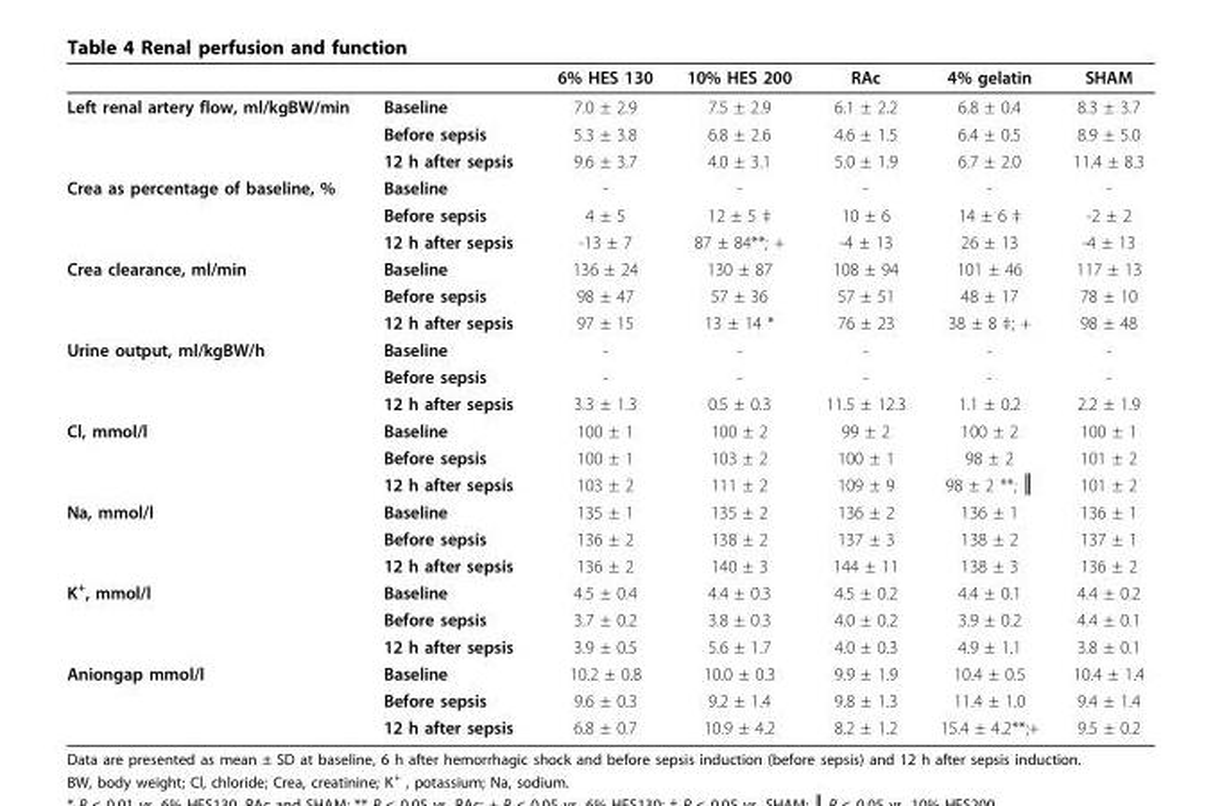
<table><thead><tr><td></td><td></td><td>6% HES 130</td><td>10% HES 200</td><td>RAc</td><td>4% gelatin</td><td>SHAM</td></tr></thead><tbody><tr><td rowspan="3">Left renal artery flow, ml/kgBW/min</td><td>Baseline</td><td>7.0 ± 2.9</td><td>7.5 ± 2.9</td><td>6.1 ± 2.2</td><td>6.8 ± 0.4</td><td>8.3 ± 3.7</td></tr><tr><td>Before sepsis</td><td>5.3 ± 3.8</td><td>6.8 ± 2.6</td><td>4.6 ± 1.5</td><td>6.4 ± 0.5</td><td>8.9 ± 5.0</td></tr><tr><td>12 h after sepsis</td><td>9.6 ± 3.7</td><td>4.0 ± 3.1</td><td>5.0 ± 1.9</td><td>6.7 ± 2.0</td><td>11.4 ± 8.3</td></tr><tr><td rowspan="3">Crea as percentage of baseline, %</td><td>Baseline</td><td>-</td><td>-</td><td>-</td><td>-</td><td>-</td></tr><tr><td>Before sepsis</td><td>4 ± 5</td><td>12 ± 5 ‡</td><td>10 ± 6</td><td>14 ± 6 ‡</td><td>-2 ± 2</td></tr><tr><td>12 h after sepsis</td><td>-13 ± 7</td><td>87 ± 84**; +</td><td>-4 ± 13</td><td>26 ± 13</td><td>-4 ± 13</td></tr><tr><td rowspan="3">Crea clearance, ml/min</td><td>Baseline</td><td>136 ± 24</td><td>130 ± 87</td><td>108 ± 94</td><td>101 ± 46</td><td>117 ± 13</td></tr><tr><td>Before sepsis</td><td>98 ± 47</td><td>57 ± 36</td><td>57 ± 51</td><td>48 ± 17</td><td>78 ± 10</td></tr><tr><td>12 h after sepsis</td><td>97 ± 15</td><td>13 ± 14 *</td><td>76 ± 23</td><td>38 ± 8 ‡; +</td><td>98 ± 48</td></tr><tr><td rowspan="3">Urine output, ml/kgBW/h</td><td>Baseline</td><td>-</td><td>-</td><td>-</td><td>-</td><td>-</td></tr><tr><td>Before sepsis</td><td>-</td><td>-</td><td>-</td><td>-</td><td>-</td></tr><tr><td>12 h after sepsis</td><td>3.3 ± 1.3</td><td>0.5 ± 0.3</td><td>11.5 ± 12.3</td><td>1.1 ± 0.2</td><td>2.2 ± 1.9</td></tr><tr><td rowspan="3">Cl, mmol/l</td><td>Baseline</td><td>100 ± 1</td><td>100 ± 2</td><td>99 ± 2</td><td>100 ± 2</td><td>100 ± 1</td></tr><tr><td>Before sepsis</td><td>100 ± 1</td><td>103 ± 2</td><td>100 ± 1</td><td>98 ± 2</td><td>101 ± 2</td></tr><tr><td>12 h after sepsis</td><td>103 ± 2</td><td>111 ± 2</td><td>109 ± 9</td><td>98 ± 2 **; ║</td><td>101 ± 2</td></tr><tr><td rowspan="3">Na, mmol/l</td><td>Baseline</td><td>135 ± 1</td><td>135 ± 2</td><td>136 ± 2</td><td>136 ± 1</td><td>136 ± 1</td></tr><tr><td>Before sepsis</td><td>136 ± 2</td><td>138 ± 2</td><td>137 ± 3</td><td>138 ± 2</td><td>137 ± 1</td></tr><tr><td>12 h after sepsis</td><td>136 ± 2</td><td>140 ± 3</td><td>144 ± 11</td><td>138 ± 3</td><td>136 ± 2</td></tr><tr><td rowspan="3">K<sup>+</sup>, mmol/l</td><td>Baseline</td><td>4.5 ± 0.4</td><td>4.4 ± 0.3</td><td>4.5 ± 0.2</td><td>4.4 ± 0.1</td><td>4.4 ± 0.2</td></tr><tr><td>Before sepsis</td><td>3.7 ± 0.2</td><td>3.8 ± 0.3</td><td>4.0 ± 0.2</td><td>3.9 ± 0.2</td><td>4.4 ± 0.1</td></tr><tr><td>12 h after sepsis</td><td>3.9 ± 0.5</td><td>5.6 ± 1.7</td><td>4.0 ± 0.3</td><td>4.9 ± 1.1</td><td>3.8 ± 0.1</td></tr><tr><td rowspan="3">Aniongap mmol/l</td><td>Baseline</td><td>10.2 ± 0.8</td><td>10.0 ± 0.3</td><td>9.9 ± 1.9</td><td>10.4 ± 0.5</td><td>10.4 ± 1.4</td></tr><tr><td>Before sepsis</td><td>9.6 ± 0.3</td><td>9.2 ± 1.4</td><td>9.8 ± 1.3</td><td>11.4 ± 1.0</td><td>9.4 ± 1.4</td></tr><tr><td>12 h after sepsis</td><td>6.8 ± 0.7</td><td>10.9 ± 4.2</td><td>8.2 ± 1.2</td><td>15.4 ± 4.2**;+</td><td>9.5 ± 0.2</td></tr></tbody></table>